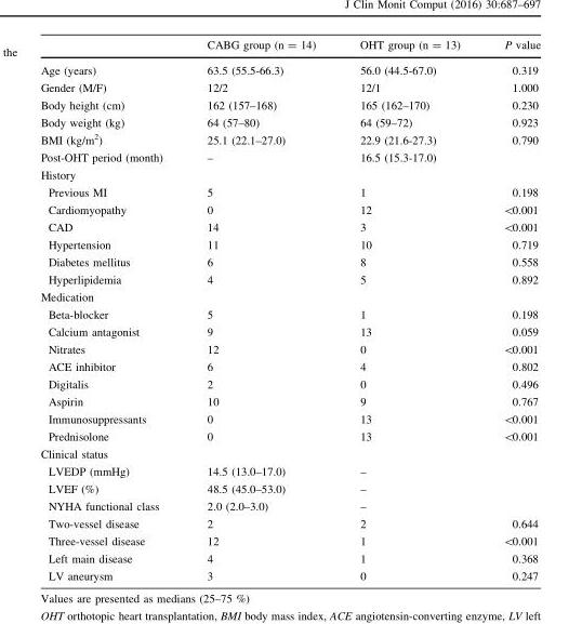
<table><thead><tr><td></td><td>CABG group (n = 14)</td><td>OHT group (n = 13)</td><td>P value</td></tr></thead><tbody><tr><td>Age (years)</td><td>63.5 (55.5-66.3)</td><td>56.0 (44.5-67.0)</td><td>0.319</td></tr><tr><td>Gender (M/F)</td><td>12/2</td><td>12/1</td><td>1.000</td></tr><tr><td>Body height (cm)</td><td>162 (157–168)</td><td>165 (162–170)</td><td>0.230</td></tr><tr><td>Body weight (kg)</td><td>64 (57–80)</td><td>64 (59–72)</td><td>0.923</td></tr><tr><td>BMI (kg/m<sup>2</sup>)</td><td>25.1 (22.1–27.0)</td><td>22.9 (21.6-27.3)</td><td>0.790</td></tr><tr><td>Post-OHT period (month)</td><td>–</td><td>16.5 (15.3-17.0)</td><td></td></tr><tr><td colspan="4">History</td></tr><tr><td>Previous MI</td><td>5</td><td>1</td><td>0.198</td></tr><tr><td>Cardiomyopathy</td><td>0</td><td>12</td><td>&lt;0.001</td></tr><tr><td>CAD</td><td>14</td><td>3</td><td>&lt;0.001</td></tr><tr><td>Hypertension</td><td>11</td><td>10</td><td>0.719</td></tr><tr><td>Diabetes mellitus</td><td>6</td><td>8</td><td>0.558</td></tr><tr><td>Hyperlipidemia</td><td>4</td><td>5</td><td>0.892</td></tr><tr><td colspan="4">Medication</td></tr><tr><td>Beta-blocker</td><td>5</td><td>1</td><td>0.198</td></tr><tr><td>Calcium antagonist</td><td>9</td><td>13</td><td>0.059</td></tr><tr><td>Nitrates</td><td>12</td><td>0</td><td>&lt;0.001</td></tr><tr><td>ACE inhibitor</td><td>6</td><td>4</td><td>0.802</td></tr><tr><td>Digitalis</td><td>2</td><td>0</td><td>0.496</td></tr><tr><td>Aspirin</td><td>10</td><td>9</td><td>0.767</td></tr><tr><td>Immunosuppressants</td><td>0</td><td>13</td><td>&lt;0.001</td></tr><tr><td>Prednisolone</td><td>0</td><td>13</td><td>&lt;0.001</td></tr><tr><td colspan="4">Clinical status</td></tr><tr><td>LVEDP (mmHg)</td><td>14.5 (13.0–17.0)</td><td>–</td><td></td></tr><tr><td>LVEF (%)</td><td>48.5 (45.0–53.0)</td><td>–</td><td></td></tr><tr><td>NYHA functional class</td><td>2.0 (2.0–3.0)</td><td>–</td><td></td></tr><tr><td>Two-vessel disease</td><td>2</td><td>2</td><td>0.644</td></tr><tr><td>Three-vessel disease</td><td>12</td><td>1</td><td>&lt;0.001</td></tr><tr><td>Left main disease</td><td>4</td><td>1</td><td>0.368</td></tr><tr><td>LV aneurysm</td><td>3</td><td>0</td><td>0.247</td></tr></tbody></table>